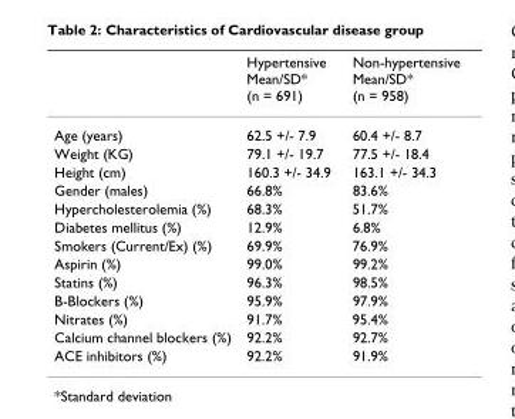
<table><thead><tr><td></td><td>Hypertensive Mean/SD* (n = 691)</td><td>Non-hypertensive Mean/SD* (n = 958)</td></tr></thead><tbody><tr><td>Age (years)</td><td>62.5 +/- 7.9</td><td>60.4 +/- 8.7</td></tr><tr><td>Weight (KG)</td><td>79.1 +/- 19.7</td><td>77.5 +/- 18.4</td></tr><tr><td>Height (cm)</td><td>160.3 +/- 34.9</td><td>163.1 +/- 34.3</td></tr><tr><td>Gender (males)</td><td>66.8%</td><td>83.6%</td></tr><tr><td>Hypercholesterolemia (%)</td><td>68.3%</td><td>51.7%</td></tr><tr><td>Diabetes mellitus (%)</td><td>12.9%</td><td>6.8%</td></tr><tr><td>Smokers (Current/Ex) (%)</td><td>69.9%</td><td>76.9%</td></tr><tr><td>Aspirin (%)</td><td>99.0%</td><td>99.2%</td></tr><tr><td>Statins (%)</td><td>96.3%</td><td>98.5%</td></tr><tr><td>B-Blockers (%)</td><td>95.9%</td><td>97.9%</td></tr><tr><td>Nitrates (%)</td><td>91.7%</td><td>95.4%</td></tr><tr><td>Calcium channel blockers (%)</td><td>92.2%</td><td>92.7%</td></tr><tr><td>ACE inhibitors (%)</td><td>92.2%</td><td>91.9%</td></tr></tbody></table>